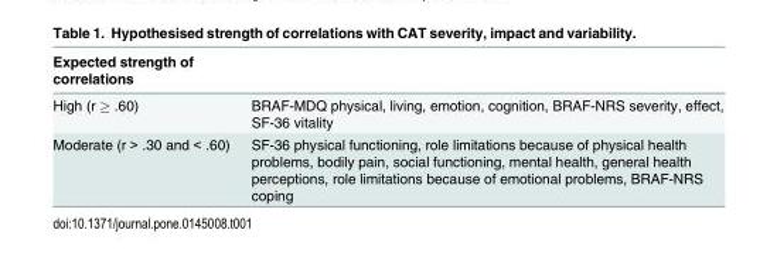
<table><thead><tr><td>Expected strength of correlations</td><td></td></tr></thead><tbody><tr><td>High (r ≥ .60)</td><td>BRAF-MDQ physical, living, emotion, cognition, BRAF-NRS severity, effect, SF-36 vitality</td></tr><tr><td>Moderate (r &gt; .30 and &lt; .60)</td><td>SF-36 physical functioning, role limitations because of physical health problems, bodily pain, social functioning, mental health, general health perceptions, role limitations because of emotional problems, BRAF-NRS coping</td></tr></tbody></table>